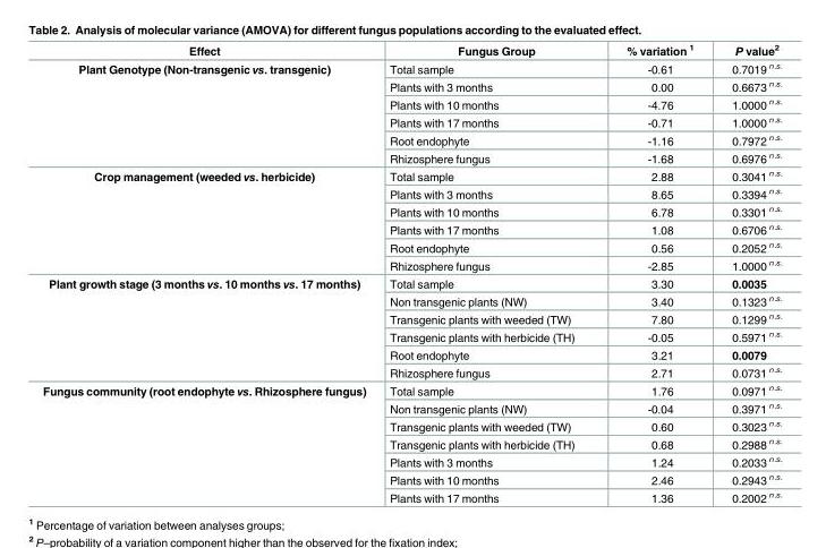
<table><thead><tr><td>Effect</td><td>Fungus Group</td><td>% variation <sup>1</sup></td><td>P value<sup>2</sup></td></tr></thead><tbody><tr><td rowspan="6">Plant Genotype (Non-transgenic vs. transgenic)</td><td>Total sample</td><td>-0.61</td><td>0.7019 <sup>n.s.</sup></td></tr><tr><td>Plants with 3 months</td><td>0.00</td><td>0.6673 <sup>n.s.</sup></td></tr><tr><td>Plants with 10 months</td><td>-4.76</td><td>1.0000 <sup>n.s.</sup></td></tr><tr><td>Plants with 17 months</td><td>-0.71</td><td>1.0000 <sup>n.s.</sup></td></tr><tr><td>Root endophyte</td><td>-1.16</td><td>0.7972 <sup>n.s.</sup></td></tr><tr><td>Rhizosphere fungus</td><td>-1.68</td><td>0.6976 <sup>n.s.</sup></td></tr><tr><td rowspan="6">Crop management (weeded vs. herbicide)</td><td>Total sample</td><td>2.88</td><td>0.3041 <sup>n.s.</sup></td></tr><tr><td>Plants with 3 months</td><td>8.65</td><td>0.3394 <sup>n.s.</sup></td></tr><tr><td>Plants with 10 months</td><td>6.78</td><td>0.3301 <sup>n.s.</sup></td></tr><tr><td>Plants with 17 months</td><td>1.08</td><td>0.6706 <sup>n.s.</sup></td></tr><tr><td>Root endophyte</td><td>0.56</td><td>0.2052 <sup>n.s.</sup></td></tr><tr><td>Rhizosphere fungus</td><td>-2.85</td><td>1.0000 <sup>n.s.</sup></td></tr><tr><td rowspan="6">Plant growth stage (3 months vs. 10 months vs. 17 months)</td><td>Total sample</td><td>3.30</td><td>0.0035</td></tr><tr><td>Non transgenic plants (NW)</td><td>3.40</td><td>0.1323 <sup>n.s.</sup></td></tr><tr><td>Transgenic plants with weeded (TW)</td><td>7.80</td><td>0.1299 <sup>n.s.</sup></td></tr><tr><td>Transgenic plants with herbicide (TH)</td><td>-0.05</td><td>0.5971 <sup>n.s.</sup></td></tr><tr><td>Root endophyte</td><td>3.21</td><td>0.0079</td></tr><tr><td>Rhizosphere fungus</td><td>2.71</td><td>0.0731 <sup>n.s.</sup></td></tr><tr><td rowspan="7">Fungus community (root endophyte vs. Rhizosphere fungus)</td><td>Total sample</td><td>1.76</td><td>0.0971 <sup>n.s.</sup></td></tr><tr><td>Non transgenic plants (NW)</td><td>-0.04</td><td>0.3971 <sup>n.s.</sup></td></tr><tr><td>Transgenic plants with weeded (TW)</td><td>0.60</td><td>0.3023 <sup>n.s.</sup></td></tr><tr><td>Transgenic plants with herbicide (TH)</td><td>0.68</td><td>0.2988 <sup>n.s.</sup></td></tr><tr><td>Plants with 3 months</td><td>1.24</td><td>0.2033 <sup>n.s.</sup></td></tr><tr><td>Plants with 10 months</td><td>2.46</td><td>0.2943 <sup>n.s.</sup></td></tr><tr><td>Plants with 17 months</td><td>1.36</td><td>0.2002 <sup>n.s.</sup></td></tr></tbody></table>